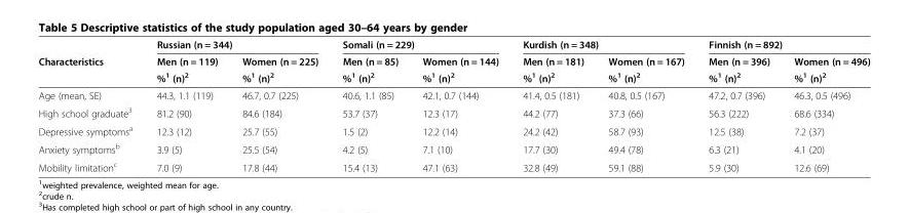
<table><thead><tr><td rowspan="3">Characteristics</td><td colspan="2">Russian (n = 344)</td><td colspan="2">Somali (n = 229)</td><td colspan="2">Kurdish (n = 348)</td><td colspan="2">Finnish (n = 892)</td></tr><tr><td rowspan="2">Men (n = 119) %<sup>1</sup> (n)<sup>2</sup></td><td rowspan="2">Women (n = 225) %<sup>1</sup> (n)<sup>2</sup></td><td rowspan="2">Men (n = 85) %<sup>1</sup> (n)<sup>2</sup></td><td rowspan="2">Women (n = 144) %<sup>1</sup> (n)<sup>2</sup></td><td rowspan="2">Men (n = 181) %<sup>1</sup> (n)<sup>2</sup></td><td rowspan="2">Women (n = 167) %<sup>1</sup> (n)<sup>2</sup></td><td rowspan="2">Men (n = 396) %<sup>1</sup> (n)<sup>2</sup></td><td rowspan="2">Women (n = 496) %<sup>1</sup> (n)<sup>2</sup></td></tr><tr></tr></thead><tbody><tr><td>Age (mean, SE)</td><td>44.3, 1.1 (119)</td><td>46.7, 0.7 (225)</td><td>40.6, 1.1 (85)</td><td>42.1, 0.7 (144)</td><td>41.4, 0.5 (181)</td><td>40.8, 0.5 (167)</td><td>47.2, 0.7 (396)</td><td>46.3, 0.5 (496)</td></tr><tr><td>High school graduate<sup>3</sup></td><td>81.2 (90)</td><td>84.6 (184)</td><td>53.7 (37)</td><td>12.3 (17)</td><td>44.2 (77)</td><td>37.3 (66)</td><td>56.3 (222)</td><td>68.6 (334)</td></tr><tr><td>Depressive symptoms<sup>a</sup></td><td>12.3 (12)</td><td>25.7 (55)</td><td>1.5 (2)</td><td>12.2 (14)</td><td>24.2 (42)</td><td>58.7 (93)</td><td>12.5 (38)</td><td>7.2 (37)</td></tr><tr><td>Anxiety symptoms<sup>b</sup></td><td>3.9 (5)</td><td>25.5 (54)</td><td>4.2 (5)</td><td>7.1 (10)</td><td>17.7 (30)</td><td>49.4 (78)</td><td>6.3 (21)</td><td>4.1 (20)</td></tr><tr><td>Mobility limitation<sup>c</sup></td><td>7.0 (9)</td><td>17.8 (44)</td><td>15.4 (13)</td><td>47.1 (63)</td><td>32.8 (49)</td><td>59.1 (88)</td><td>5.9 (30)</td><td>12.6 (69)</td></tr></tbody></table>